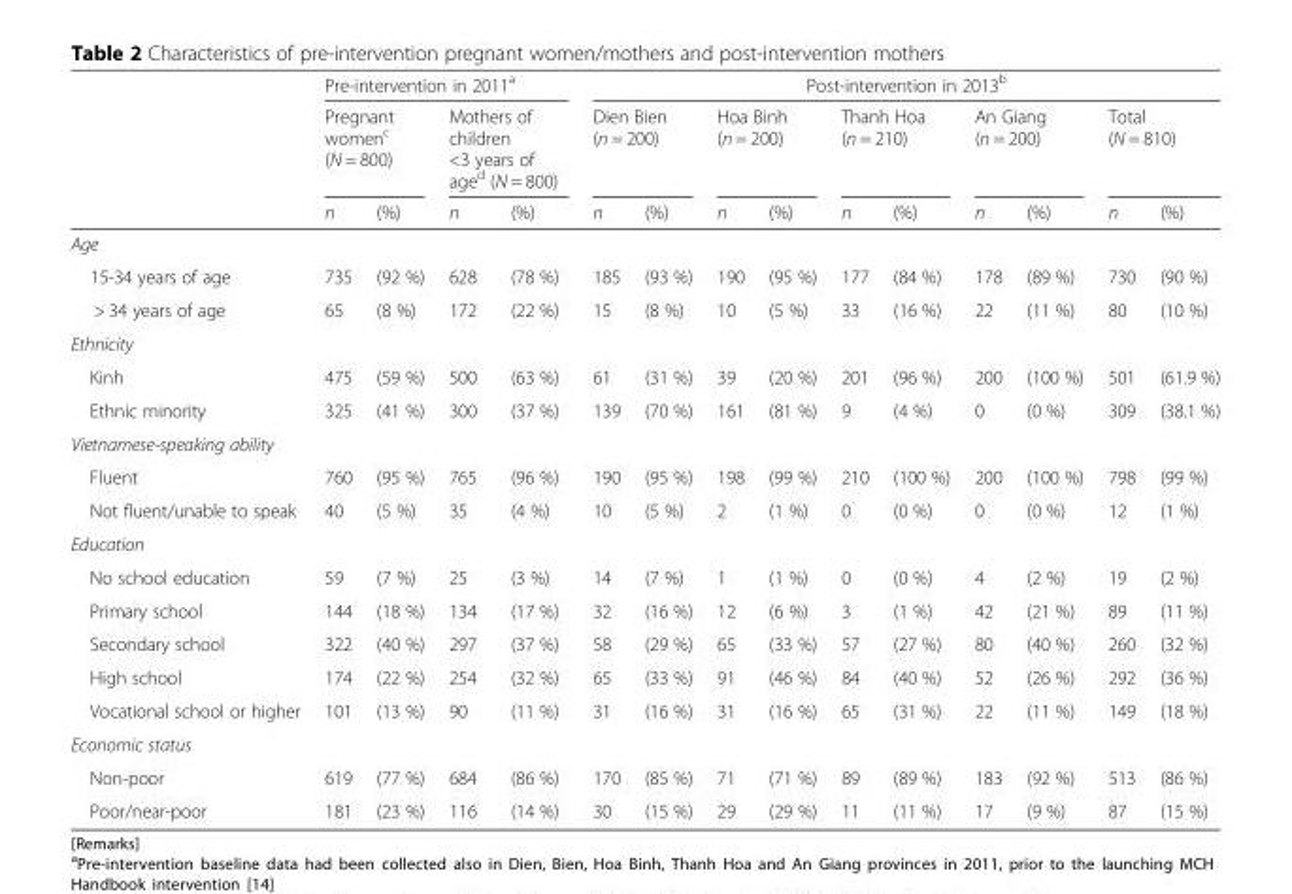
<table><thead><tr><td rowspan="3"></td><td colspan="4">Pre-intervention in 2011<sup>a</sup></td><td colspan="10">Post-intervention in 2013<sup>b</sup></td></tr><tr><td colspan="2">Pregnant women<sup>c</sup> (N = 800)</td><td colspan="2">Mothers of children &lt;3 years of age<sup>d</sup> (N = 800)</td><td colspan="2">Dien Bien (n = 200)</td><td colspan="2">Hoa Binh (n = 200)</td><td colspan="2">Thanh Hoa (n = 210)</td><td colspan="2">An Giang (n = 200)</td><td colspan="2">Total (N = 810)</td></tr><tr><td>n</td><td>(%)</td><td>n</td><td>(%)</td><td>n</td><td>(%)</td><td>n</td><td>(%)</td><td>n</td><td>(%)</td><td>n</td><td>(%)</td><td>n</td><td>(%)</td></tr></thead><tbody><tr><td colspan="15">Age</td></tr><tr><td>15-34 years of age</td><td>735</td><td>(92 %)</td><td>628</td><td>(78 %)</td><td>185</td><td>(93 %)</td><td>190</td><td>(95 %)</td><td>177</td><td>(84 %)</td><td>178</td><td>(89 %)</td><td>730</td><td>(90 %)</td></tr><tr><td>&gt; 34 years of age</td><td>65</td><td>(8 %)</td><td>172</td><td>(22 %)</td><td>15</td><td>(8 %)</td><td>10</td><td>(5 %)</td><td>33</td><td>(16 %)</td><td>22</td><td>(11 %)</td><td>80</td><td>(10 %)</td></tr><tr><td colspan="15">Ethnicity</td></tr><tr><td>Kinh</td><td>475</td><td>(59 %)</td><td>500</td><td>(63 %)</td><td>61</td><td>(31 %)</td><td>39</td><td>(20 %)</td><td>201</td><td>(96 %)</td><td>200</td><td>(100 %)</td><td>501</td><td>(61.9 %)</td></tr><tr><td>Ethnic minority</td><td>325</td><td>(41 %)</td><td>300</td><td>(37 %)</td><td>139</td><td>(70 %)</td><td>161</td><td>(81 %)</td><td>9</td><td>(4 %)</td><td>0</td><td>(0 %)</td><td>309</td><td>(38.1 %)</td></tr><tr><td colspan="15">Vietnamese-speaking ability</td></tr><tr><td>Fluent</td><td>760</td><td>(95 %)</td><td>765</td><td>(96 %)</td><td>190</td><td>(95 %)</td><td>198</td><td>(99 %)</td><td>210</td><td>(100 %)</td><td>200</td><td>(100 %)</td><td>798</td><td>(99 %)</td></tr><tr><td>Not fluent/unable to speak</td><td>40</td><td>(5 %)</td><td>35</td><td>(4 %)</td><td>10</td><td>(5 %)</td><td>2</td><td>(1 %)</td><td>0</td><td>(0 %)</td><td>0</td><td>(0 %)</td><td>12</td><td>(1 %)</td></tr><tr><td colspan="15">Education</td></tr><tr><td>No school education</td><td>59</td><td>(7 %)</td><td>25</td><td>(3 %)</td><td>14</td><td>(7 %)</td><td>1</td><td>(1 %)</td><td>0</td><td>(0 %)</td><td>4</td><td>(2 %)</td><td>19</td><td>(2 %)</td></tr><tr><td>Primary school</td><td>144</td><td>(18 %)</td><td>134</td><td>(17 %)</td><td>32</td><td>(16 %)</td><td>12</td><td>(6 %)</td><td>3</td><td>(1 %)</td><td>42</td><td>(21 %)</td><td>89</td><td>(11 %)</td></tr><tr><td>Secondary school</td><td>322</td><td>(40 %)</td><td>297</td><td>(37 %)</td><td>58</td><td>(29 %)</td><td>65</td><td>(33 %)</td><td>57</td><td>(27 %)</td><td>80</td><td>(40 %)</td><td>260</td><td>(32 %)</td></tr><tr><td>High school</td><td>174</td><td>(22 %)</td><td>254</td><td>(32 %)</td><td>65</td><td>(33 %)</td><td>91</td><td>(46 %)</td><td>84</td><td>(40 %)</td><td>52</td><td>(26 %)</td><td>292</td><td>(36 %)</td></tr><tr><td>Vocational school or higher</td><td>101</td><td>(13 %)</td><td>90</td><td>(11 %)</td><td>31</td><td>(16 %)</td><td>31</td><td>(16 %)</td><td>65</td><td>(31 %)</td><td>22</td><td>(11 %)</td><td>149</td><td>(18 %)</td></tr><tr><td colspan="15">Economic status</td></tr><tr><td>Non-poor</td><td>619</td><td>(77 %)</td><td>684</td><td>(86 %)</td><td>170</td><td>(85 %)</td><td>71</td><td>(71 %)</td><td>89</td><td>(89 %)</td><td>183</td><td>(92 %)</td><td>513</td><td>(86 %)</td></tr><tr><td>Poor/near-poor</td><td>181</td><td>(23 %)</td><td>116</td><td>(14 %)</td><td>30</td><td>(15 %)</td><td>29</td><td>(29 %)</td><td>11</td><td>(11 %)</td><td>17</td><td>(9 %)</td><td>87</td><td>(15 %)</td></tr></tbody></table>